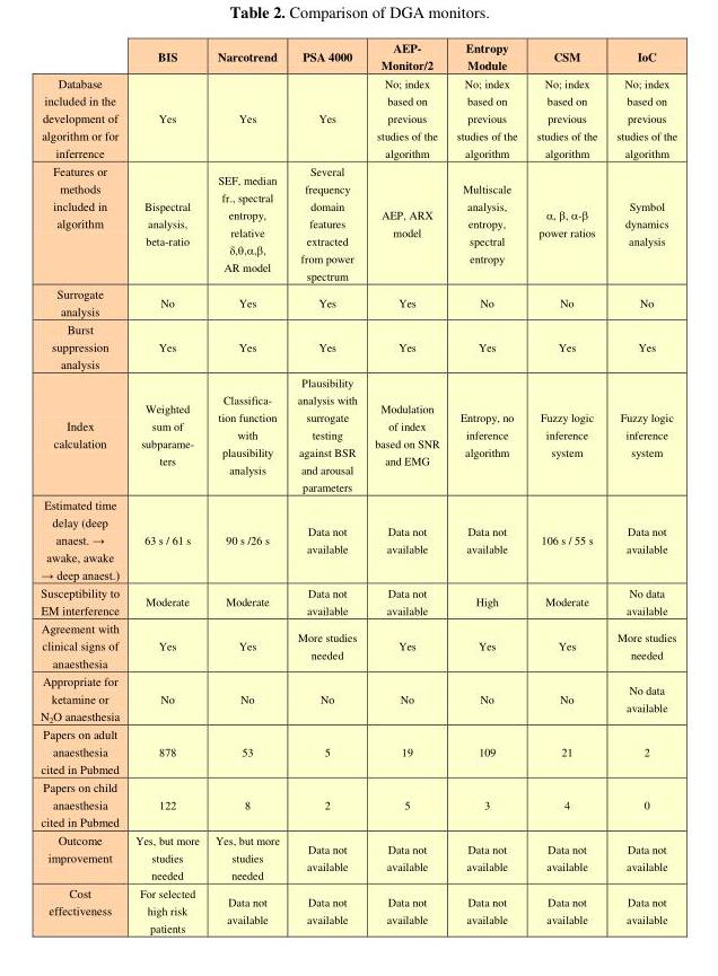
<table><thead><tr><td></td><td>BIS</td><td>Narcotrend</td><td>PSA 4000</td><td>AEP- Monitor/2</td><td>Entropy Module</td><td>CSM</td><td>IoC</td></tr></thead><tbody><tr><td>Database included in the development of algorithm or for inferrence</td><td>Yes</td><td>Yes</td><td>Yes</td><td>No; index based on previous studies of the algorithm</td><td>No; index based on previous studies of the algorithm</td><td>No; index based on previous studies of the algorithm</td><td>No; index based on previous studies of the algorithm</td></tr><tr><td>Features or methods included in algorithm</td><td>Bispectral analysis, beta-ratio</td><td>SEF, median fr., spectral entropy, relative δ,θ,α,β, AR model</td><td>Several frequency domain features extracted from power spectrum</td><td>AEP, ARX model</td><td>Multiscale analysis, entropy, spectral entropy</td><td>α, β, α-β power ratios</td><td>Symbol dynamics analysis</td></tr><tr><td>Surrogate analysis</td><td>No</td><td>Yes</td><td>Yes</td><td>Yes</td><td>No</td><td>No</td><td>No</td></tr><tr><td>Burst suppression analysis</td><td>Yes</td><td>Yes</td><td>Yes</td><td>Yes</td><td>Yes</td><td>Yes</td><td>Yes</td></tr><tr><td>Index calculation</td><td>Weighted sum of subparame- ters</td><td>Classifica- tion function with plausibility analysis</td><td>Plausibility analysis with surrogate testing against BSR and arousal parameters</td><td>Modulation of index based on SNR and EMG</td><td>Entropy, no inference algorithm</td><td>Fuzzy logic inference system</td><td>Fuzzy logic inference system</td></tr><tr><td>Estimated time delay (deep anaest. → awake, awake → deep anaest.)</td><td>63 s / 61 s</td><td>90 s /26 s</td><td>Data not available</td><td>Data not available</td><td>Data not available</td><td>106 s / 55 s</td><td>Data not available</td></tr><tr><td>Susceptibility to EM interference</td><td>Moderate</td><td>Moderate</td><td>Data not available</td><td>Data not available</td><td>High</td><td>Moderate</td><td>No data available</td></tr><tr><td>Agreement with clinical signs of anaesthesia</td><td>Yes</td><td>Yes</td><td>More studies needed</td><td>Yes</td><td>Yes</td><td>Yes</td><td>More studies needed</td></tr><tr><td>Appropriate for ketamine or N<sub>2</sub>O anaesthesia</td><td>No</td><td>No</td><td>No</td><td>No</td><td>No</td><td>No</td><td>No data available</td></tr><tr><td>Papers on adult anaesthesia cited in Pubmed</td><td>878</td><td>53</td><td>5</td><td>19</td><td>109</td><td>21</td><td>2</td></tr><tr><td>Papers on child anaesthesia cited in Pubmed</td><td>122</td><td>8</td><td>2</td><td>5</td><td>3</td><td>4</td><td>0</td></tr><tr><td>Outcome improvement</td><td>Yes, but more studies needed</td><td>Yes, but more studies needed</td><td>Data not available</td><td>Data not available</td><td>Data not available</td><td>Data not available</td><td>Data not available</td></tr><tr><td>Cost effectiveness</td><td>For selected high risk patients</td><td>Data not available</td><td>Data not available</td><td>Data not available</td><td>Data not available</td><td>Data not available</td><td>Data not available</td></tr></tbody></table>